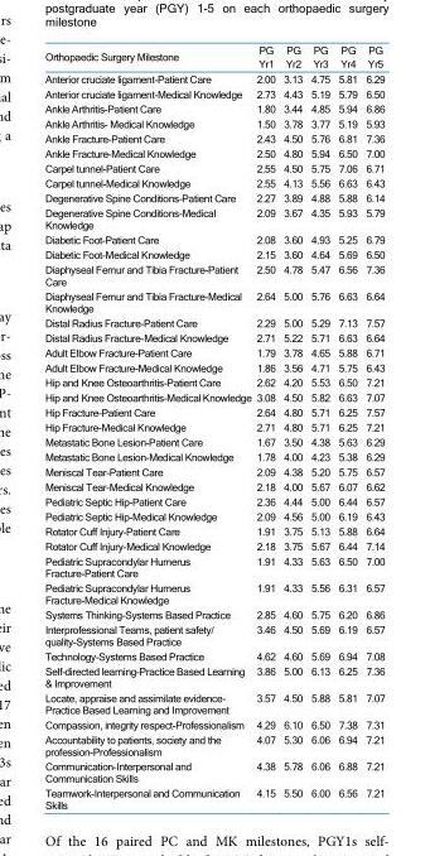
<table><thead><tr><td>Orthopaedic Surgery Milestone</td><td>PG Yr1</td><td>PG Yr2</td><td>PG Yr3</td><td>PG Yr4</td><td>PG Yr5</td></tr></thead><tbody><tr><td>Anterior cruciate ligament-Patient Care</td><td>2.00</td><td>3.13</td><td>4.75</td><td>5.81</td><td>6.29</td></tr><tr><td>Anterior cruciate ligament-Medical Knowledge</td><td>2.73</td><td>4.43</td><td>5.19</td><td>5.79</td><td>6.50</td></tr><tr><td>Ankle Arthritis-Patient Care</td><td>1.80</td><td>3.44</td><td>4.85</td><td>5.94</td><td>6.86</td></tr><tr><td>Ankle Arthritis- Medical Knowledge</td><td>1.50</td><td>3.78</td><td>3.77</td><td>5.19</td><td>5.93</td></tr><tr><td>Ankle Fracture-Patient Care</td><td>2.43</td><td>4.50</td><td>5.76</td><td>6.81</td><td>7.36</td></tr><tr><td>Ankle Fracture-Medical Knowledge</td><td>2.50</td><td>4.80</td><td>5.94</td><td>6.50</td><td>7.00</td></tr><tr><td>Carpel tunnel-Patient Care</td><td>2.55</td><td>4.50</td><td>5.75</td><td>7.06</td><td>6.71</td></tr><tr><td>Carpel tunnel-Medical Knowledge</td><td>2.55</td><td>4.13</td><td>5.56</td><td>6.63</td><td>6.43</td></tr><tr><td>Degenerative Spine Conditions-Patient Care</td><td>2.27</td><td>3.89</td><td>4.88</td><td>5.88</td><td>6.14</td></tr><tr><td>Degenerative Spine Conditions-Medical Knowledge</td><td>2.09</td><td>3.67</td><td>4.35</td><td>5.93</td><td>5.79</td></tr><tr><td>Diabetic Foot-Patient Care</td><td>2.08</td><td>3.60</td><td>4.93</td><td>5.25</td><td>6.79</td></tr><tr><td>Diabetic Foot-Medical Knowledge</td><td>2.15</td><td>3.60</td><td>4.64</td><td>5.69</td><td>6.50</td></tr><tr><td>Diaphyseal Femur and Tibia Fracture-Patient Care</td><td>2.50</td><td>4.78</td><td>5.47</td><td>6.56</td><td>7.36</td></tr><tr><td>Diaphyseal Femur and Tibia Fracture-Medical Knowledge</td><td>2.64</td><td>5.00</td><td>5.76</td><td>6.63</td><td>6.64</td></tr><tr><td>Distal Radius Fracture-Patient Care</td><td>2.29</td><td>5.00</td><td>5.29</td><td>7.13</td><td>7.57</td></tr><tr><td>Distal Radius Fracture-Medical Knowledge</td><td>2.71</td><td>5.22</td><td>5.71</td><td>6.63</td><td>6.64</td></tr><tr><td>Adult Elbow Fracture-Patient Care</td><td>1.79</td><td>3.78</td><td>4.65</td><td>5.88</td><td>6.71</td></tr><tr><td>Adult Elbow Fracture-Medical Knowledge</td><td>1.86</td><td>3.56</td><td>4.71</td><td>5.75</td><td>6.43</td></tr><tr><td>Hip and Knee Osteoarthritis-Patient Care</td><td>2.62</td><td>4.20</td><td>5.53</td><td>6.50</td><td>7.21</td></tr><tr><td>Hip and Knee Osteoarthritis-Medical Knowledge</td><td>3.08</td><td>4.50</td><td>5.82</td><td>6.63</td><td>7.07</td></tr><tr><td>Hip Fracture-Patient Care</td><td>2.64</td><td>4.80</td><td>5.71</td><td>6.25</td><td>7.57</td></tr><tr><td>Hip Fracture-Medical Knowledge</td><td>2.71</td><td>4.80</td><td>5.71</td><td>6.25</td><td>7.21</td></tr><tr><td>Metastatic Bone Lesion-Patient Care</td><td>1.67</td><td>3.50</td><td>4.38</td><td>5.63</td><td>6.29</td></tr><tr><td>Metastatic Bone Lesion-Medical Knowledge</td><td>1.78</td><td>4.00</td><td>4.23</td><td>5.38</td><td>6.29</td></tr><tr><td>Meniscal Tear-Patient Care</td><td>2.09</td><td>4.38</td><td>5.20</td><td>5.75</td><td>6.57</td></tr><tr><td>Meniscal Tear-Medical Knowledge</td><td>2.18</td><td>4.00</td><td>5.67</td><td>6.07</td><td>6.62</td></tr><tr><td>Pediatric Septic Hip-Patient Care</td><td>2.36</td><td>4.44</td><td>5.00</td><td>6.44</td><td>6.57</td></tr><tr><td>Pediatric Septic Hip-Medical Knowledge</td><td>2.09</td><td>4.56</td><td>5.00</td><td>6.19</td><td>6.43</td></tr><tr><td>Rotator Cuff Injury-Patient Care</td><td>1.91</td><td>3.75</td><td>5.13</td><td>5.88</td><td>6.64</td></tr><tr><td>Rotator Cuff Injury-Medical Knowledge</td><td>2.18</td><td>3.75</td><td>5.67</td><td>6.44</td><td>7.14</td></tr><tr><td>Pediatric Supracondylar Humerus Fracture-Patient Care</td><td>1.91</td><td>4.33</td><td>5.63</td><td>6.50</td><td>7.00</td></tr><tr><td>Pediatric Supracondylar Humerus Fracture-Medical Knowledge</td><td>1.91</td><td>4.33</td><td>5.56</td><td>6.31</td><td>6.57</td></tr><tr><td>Systems Thinking-Systems Based Practice</td><td>2.85</td><td>4.60</td><td>5.75</td><td>6.20</td><td>6.86</td></tr><tr><td>Interprofessional Teams, patient safety/ quality-Systems Based Practice</td><td>3.46</td><td>4.50</td><td>5.69</td><td>6.19</td><td>6.57</td></tr><tr><td>Technology-Systems Based Practice</td><td>4.62</td><td>4.60</td><td>5.69</td><td>6.94</td><td>7.08</td></tr><tr><td>Self-directed learning-Practice Based Learning &amp; Improvement</td><td>3.86</td><td>5.00</td><td>6.13</td><td>6.25</td><td>7.36</td></tr><tr><td>Locate, appraise and assimilate evidence- Practice Based Learning and Improvement</td><td>3.57</td><td>4.50</td><td>5.88</td><td>5.81</td><td>7.07</td></tr><tr><td>Compassion, integrity respect-Professionalism</td><td>4.29</td><td>6.10</td><td>6.50</td><td>7.38</td><td>7.31</td></tr><tr><td>Accountability to patients, society and the profession-Professionalism</td><td>4.07</td><td>5.30</td><td>6.06</td><td>6.94</td><td>7.21</td></tr><tr><td>Communication-Interpersonal and Communication Skills</td><td>4.38</td><td>5.78</td><td>6.06</td><td>6.88</td><td>7.21</td></tr><tr><td>Teamwork-Interpersonal and Communication Skills</td><td>4.15</td><td>5.50</td><td>6.00</td><td>6.56</td><td>7.21</td></tr></tbody></table>